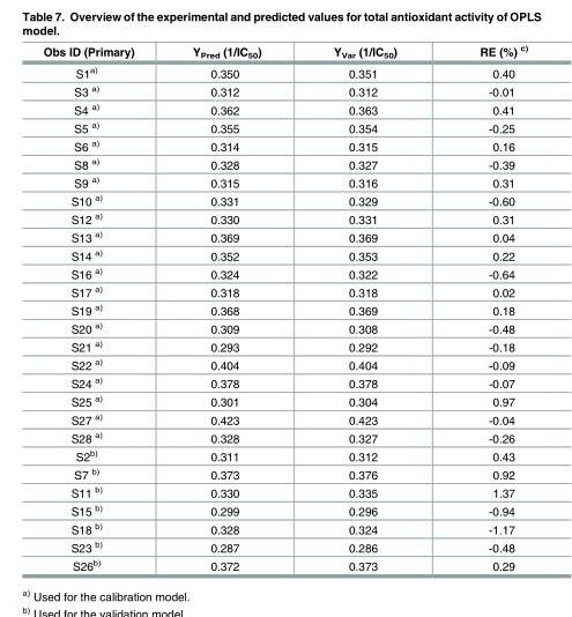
<table><thead><tr><td>Obs ID (Primary)</td><td>Y<sub>Pred</sub> (1/IC<sub>50</sub>)</td><td>Y<sub>Var</sub> (1/IC<sub>50</sub>)</td><td>RE (%) <sup>c)</sup></td></tr></thead><tbody><tr><td>S1<sup>a)</sup></td><td>0.350</td><td>0.351</td><td>0.40</td></tr><tr><td>S3 <sup>a)</sup></td><td>0.312</td><td>0.312</td><td>-0.01</td></tr><tr><td>S4 <sup>a)</sup></td><td>0.362</td><td>0.363</td><td>0.41</td></tr><tr><td>S5 <sup>a)</sup></td><td>0.355</td><td>0.354</td><td>-0.25</td></tr><tr><td>S6 <sup>a)</sup></td><td>0.314</td><td>0.315</td><td>0.16</td></tr><tr><td>S8 <sup>a)</sup></td><td>0.328</td><td>0.327</td><td>-0.39</td></tr><tr><td>S9 <sup>a)</sup></td><td>0.315</td><td>0.316</td><td>0.31</td></tr><tr><td>S10 <sup>a)</sup></td><td>0.331</td><td>0.329</td><td>-0.60</td></tr><tr><td>S12 <sup>a)</sup></td><td>0.330</td><td>0.331</td><td>0.31</td></tr><tr><td>S13 <sup>a)</sup></td><td>0.369</td><td>0.369</td><td>0.04</td></tr><tr><td>S14 <sup>a)</sup></td><td>0.352</td><td>0.353</td><td>0.22</td></tr><tr><td>S16 <sup>a)</sup></td><td>0.324</td><td>0.322</td><td>-0.64</td></tr><tr><td>S17 <sup>a)</sup></td><td>0.318</td><td>0.318</td><td>0.02</td></tr><tr><td>S19 <sup>a)</sup></td><td>0.368</td><td>0.369</td><td>0.18</td></tr><tr><td>S20 <sup>a)</sup></td><td>0.309</td><td>0.308</td><td>-0.48</td></tr><tr><td>S21 <sup>a)</sup></td><td>0.293</td><td>0.292</td><td>-0.18</td></tr><tr><td>S22 <sup>a)</sup></td><td>0.404</td><td>0.404</td><td>-0.09</td></tr><tr><td>S24 <sup>a)</sup></td><td>0.378</td><td>0.378</td><td>-0.07</td></tr><tr><td>S25 <sup>a)</sup></td><td>0.301</td><td>0.304</td><td>0.97</td></tr><tr><td>S27 <sup>a)</sup></td><td>0.423</td><td>0.423</td><td>-0.04</td></tr><tr><td>S28 <sup>a)</sup></td><td>0.328</td><td>0.327</td><td>-0.26</td></tr><tr><td>S2<sup>b)</sup></td><td>0.311</td><td>0.312</td><td>0.43</td></tr><tr><td>S7 <sup>b)</sup></td><td>0.373</td><td>0.376</td><td>0.92</td></tr><tr><td>S11 <sup>b)</sup></td><td>0.330</td><td>0.335</td><td>1.37</td></tr><tr><td>S15 <sup>b)</sup></td><td>0.299</td><td>0.296</td><td>-0.94</td></tr><tr><td>S18 <sup>b)</sup></td><td>0.328</td><td>0.324</td><td>-1.17</td></tr><tr><td>S23 <sup>b)</sup></td><td>0.287</td><td>0.286</td><td>-0.48</td></tr><tr><td>S26<sup>b)</sup></td><td>0.372</td><td>0.373</td><td>0.29</td></tr></tbody></table>